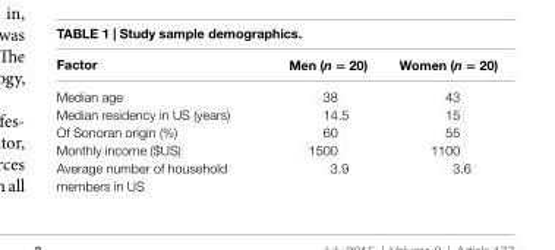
<table><thead><tr><td>Factor</td><td>Men (n = 20)</td><td>Women (n = 20)</td></tr></thead><tbody><tr><td>Median age</td><td>38</td><td>43</td></tr><tr><td>Median residency in US (years)</td><td>14.5</td><td>15</td></tr><tr><td>Of Sonoran origin (%)</td><td>60</td><td>55</td></tr><tr><td>Monthly income ($US)</td><td>1500</td><td>1100</td></tr><tr><td>Average number of household members in US</td><td>3.9</td><td>3.6</td></tr></tbody></table>